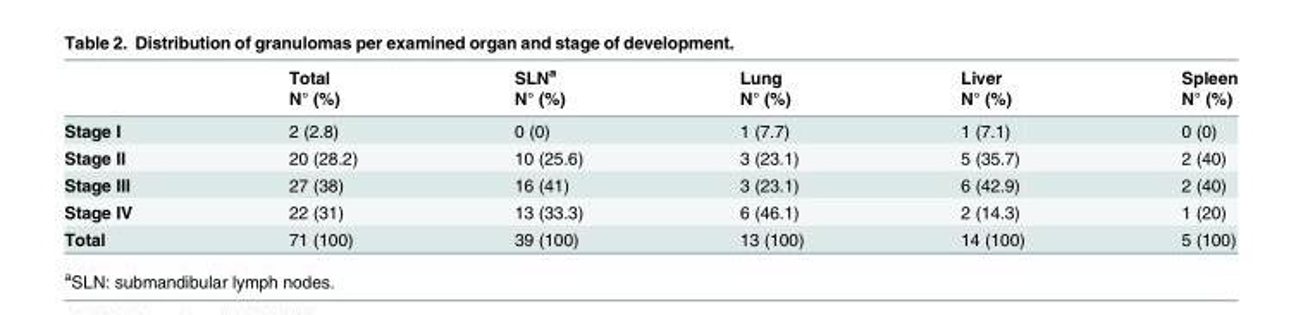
<table><thead><tr><td rowspan="2"></td><td rowspan="2">Total N° (%)</td><td rowspan="2">SLN<sup>a</sup> N° (%)</td><td rowspan="2">Lung N° (%)</td><td rowspan="2">Liver N° (%)</td><td rowspan="2">Spleen N° (%)</td></tr><tr></tr></thead><tbody><tr><td>Stage I</td><td>2 (2.8)</td><td>0 (0)</td><td>1 (7.7)</td><td>1 (7.1)</td><td>0 (0)</td></tr><tr><td>Stage II</td><td>20 (28.2)</td><td>10 (25.6)</td><td>3 (23.1)</td><td>5 (35.7)</td><td>2 (40)</td></tr><tr><td>Stage III</td><td>27 (38)</td><td>16 (41)</td><td>3 (23.1)</td><td>6 (42.9)</td><td>2 (40)</td></tr><tr><td>Stage IV</td><td>22 (31)</td><td>13 (33.3)</td><td>6 (46.1)</td><td>2 (14.3)</td><td>1 (20)</td></tr><tr><td>Total</td><td>71 (100)</td><td>39 (100)</td><td>13 (100)</td><td>14 (100)</td><td>5 (100)</td></tr></tbody></table>